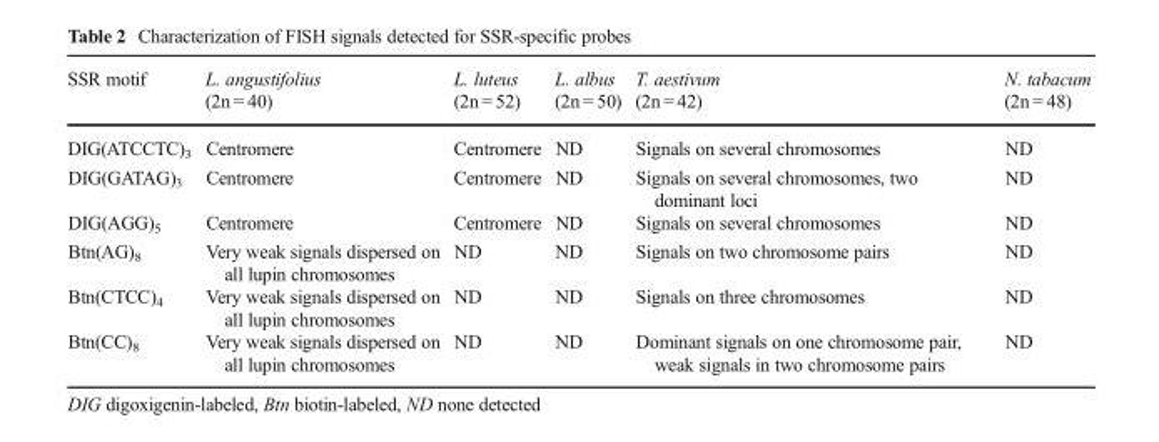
<table><thead><tr><td>SSR motif</td><td>L. angustifolius (2n = 40)</td><td>L. luteus (2n = 52)</td><td>L. albus (2n = 50)</td><td>T. aestivum (2n = 42)</td><td>N. tabacum (2n = 48)</td></tr></thead><tbody><tr><td>DIG(ATCCTC)<sub>3</sub></td><td>Centromere</td><td>Centromere</td><td>ND</td><td>Signals on several chromosomes</td><td>ND</td></tr><tr><td>DIG(GATAG)<sub>3</sub></td><td>Centromere</td><td>Centromere</td><td>ND</td><td>Signals on several chromosomes, two dominant loci</td><td>ND</td></tr><tr><td>DIG(AGG)<sub>5</sub></td><td>Centromere</td><td>Centromere</td><td>ND</td><td>Signals on several chromosomes</td><td>ND</td></tr><tr><td>Btn(AG)<sub>8</sub></td><td>Very weak signals dispersed on all lupin chromosomes</td><td>ND</td><td>ND</td><td>Signals on two chromosome pairs</td><td>ND</td></tr><tr><td>Btn(CTCC)<sub>4</sub></td><td>Very weak signals dispersed on all lupin chromosomes</td><td>ND</td><td>ND</td><td>Signals on three chromosomes</td><td>ND</td></tr><tr><td>Btn(CC)<sub>8</sub></td><td>Very weak signals dispersed on all lupin chromosomes</td><td>ND</td><td>ND</td><td>Dominant signals on one chromosome pair, weak signals in two chromosome pairs</td><td>ND</td></tr></tbody></table>